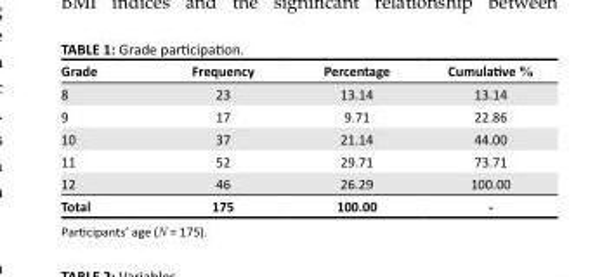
<table><thead><tr><td>Grade</td><td>Frequency</td><td>Percentage</td><td>Cumulative %</td></tr></thead><tbody><tr><td>8</td><td>23</td><td>13.14</td><td>13.14</td></tr><tr><td>9</td><td>17</td><td>9.71</td><td>22.86</td></tr><tr><td>10</td><td>37</td><td>21.14</td><td>44.00</td></tr><tr><td>11</td><td>52</td><td>29.71</td><td>73.71</td></tr><tr><td>12</td><td>46</td><td>26.29</td><td>100.00</td></tr><tr><td>Total</td><td>175</td><td>100.00</td><td>-</td></tr></tbody></table>